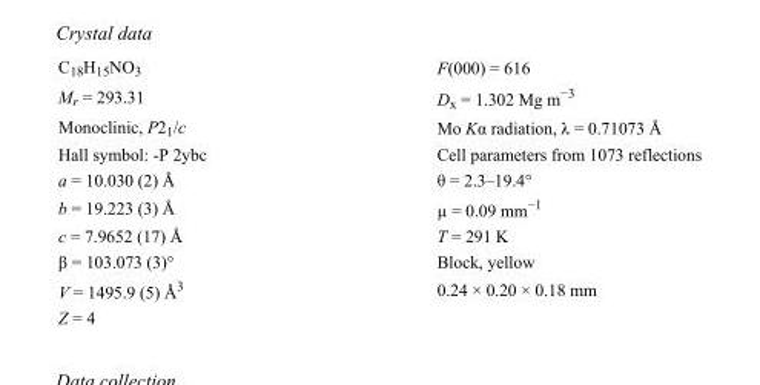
<table><tbody><tr><td>C<sub>18</sub>H<sub>15</sub>NO<sub>3</sub></td><td>F(000) = 616</td></tr><tr><td>M<sub>r</sub> = 293.31</td><td>D<sub>x</sub> = 1.302 Mg m<sup>−3</sup></td></tr><tr><td>Monoclinic, P2<sub>1</sub>/c</td><td>Mo Kα radiation, λ = 0.71073 Å</td></tr><tr><td>Hall symbol: -P 2ybc</td><td>Cell parameters from 1073 reflections</td></tr><tr><td>a = 10.030 (2) Å</td><td>θ = 2.3–19.4°</td></tr><tr><td>b = 19.223 (3) Å</td><td>µ = 0.09 mm<sup>−1</sup></td></tr><tr><td>c = 7.9652 (17) Å</td><td>T = 291 K</td></tr><tr><td>β = 103.073 (3)°</td><td>Block, yellow</td></tr><tr><td>V = 1495.9 (5) Å<sup>3</sup></td><td>0.24 × 0.20 × 0.18 mm</td></tr><tr><td>Z = 4</td><td></td></tr></tbody></table>